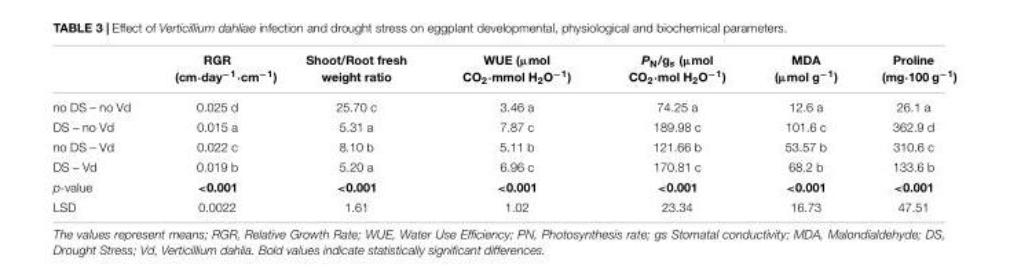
<table><thead><tr><td></td><td>RGR (cm·day−1·cm−1)</td><td>Shoot/Root fresh weight ratio</td><td>WUE (µmol CO2·mmol H2O−1)</td><td>PN/gs (µmol CO2·mol H2O−1)</td><td>MDA (µmol g<sup>−1</sup>)</td><td>Proline (mg·100 g−1)</td></tr></thead><tbody><tr><td>no DS – no Vd</td><td>0.025 d</td><td>25.70 c</td><td>3.46 a</td><td>74.25 a</td><td>12.6 a</td><td>26.1 a</td></tr><tr><td>DS – no Vd</td><td>0.015 a</td><td>5.31 a</td><td>7.87 c</td><td>189.98 c</td><td>101.6 c</td><td>362.9 d</td></tr><tr><td>no DS – Vd</td><td>0.022 c</td><td>8.10 b</td><td>5.11 b</td><td>121.66 b</td><td>53.57 b</td><td>310.6 c</td></tr><tr><td>DS – Vd</td><td>0.019 b</td><td>5.20 a</td><td>6.96 c</td><td>170.81 c</td><td>68.2 b</td><td>133.6 b</td></tr><tr><td>p-value</td><td>&lt;0.001</td><td>&lt;0.001</td><td>&lt;0.001</td><td>&lt;0.001</td><td>&lt;0.001</td><td>&lt;0.001</td></tr><tr><td>LSD</td><td>0.0022</td><td>1.61</td><td>1.02</td><td>23.34</td><td>16.73</td><td>47.51</td></tr></tbody></table>